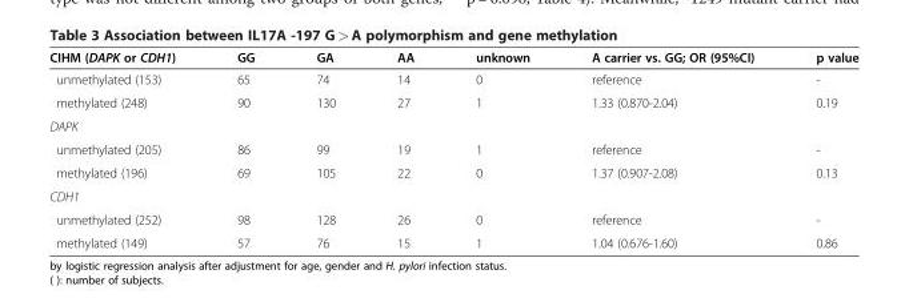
<table><thead><tr><td>CIHM (DAPK or CDH1)</td><td>GG</td><td>GA</td><td>AA</td><td>unknown</td><td>A carrier vs. GG; OR (95%CI)</td><td>p value</td></tr></thead><tbody><tr><td>unmethylated (153)</td><td>65</td><td>74</td><td>14</td><td>0</td><td>reference</td><td>-</td></tr><tr><td>methylated (248)</td><td>90</td><td>130</td><td>27</td><td>1</td><td>1.33 (0.870-2.04)</td><td>0.19</td></tr><tr><td colspan="7">DAPK</td></tr><tr><td>unmethylated (205)</td><td>86</td><td>99</td><td>19</td><td>1</td><td>reference</td><td>-</td></tr><tr><td>methylated (196)</td><td>69</td><td>105</td><td>22</td><td>0</td><td>1.37 (0.907-2.08)</td><td>0.13</td></tr><tr><td colspan="7">CDH1</td></tr><tr><td>unmethylated (252)</td><td>98</td><td>128</td><td>26</td><td>0</td><td>reference</td><td>-</td></tr><tr><td>methylated (149)</td><td>57</td><td>76</td><td>15</td><td>1</td><td>1.04 (0.676-1.60)</td><td>0.86</td></tr></tbody></table>